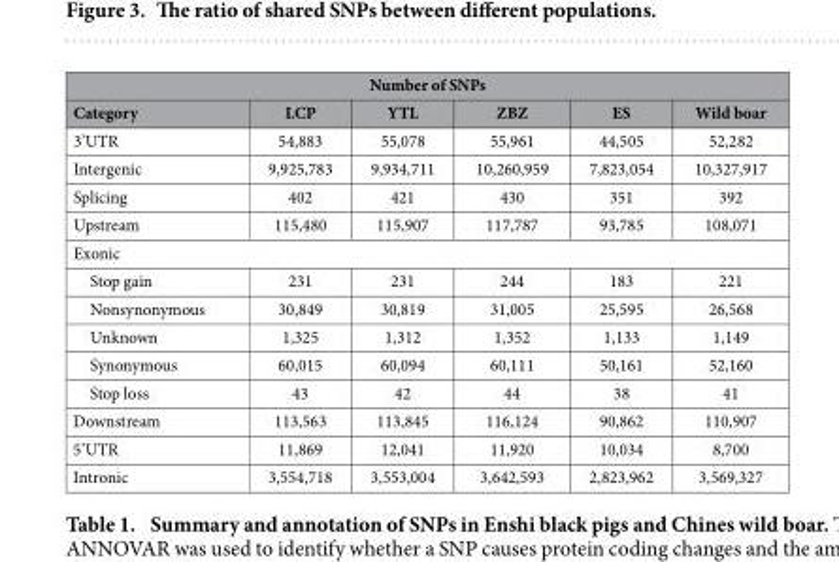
<table><thead><tr><td colspan="6">Number of SNPs</td></tr><tr><td>Category</td><td>LCP</td><td>YTL</td><td>ZBZ</td><td>ES</td><td>Wild boar</td></tr></thead><tbody><tr><td>3’UTR</td><td>54,883</td><td>55,078</td><td>55,961</td><td>44,505</td><td>52,282</td></tr><tr><td>Intergenic</td><td>9,925,783</td><td>9,934,711</td><td>10,260,959</td><td>7,823,054</td><td>10,327,917</td></tr><tr><td>Splicing</td><td>402</td><td>421</td><td>430</td><td>351</td><td>392</td></tr><tr><td>Upstream</td><td>115,480</td><td>115,907</td><td>117,787</td><td>93,785</td><td>108,071</td></tr><tr><td colspan="6">Exonic</td></tr><tr><td>Stop gain</td><td>231</td><td>231</td><td>244</td><td>183</td><td>221</td></tr><tr><td>Nonsynonymous</td><td>30,849</td><td>30,819</td><td>31,005</td><td>25,595</td><td>26,568</td></tr><tr><td>Unknown</td><td>1,325</td><td>1,312</td><td>1,352</td><td>1,133</td><td>1,149</td></tr><tr><td>Synonymous</td><td>60,015</td><td>60,094</td><td>60,111</td><td>50,161</td><td>52,160</td></tr><tr><td>Stop loss</td><td>43</td><td>42</td><td>44</td><td>38</td><td>41</td></tr><tr><td>Downstream</td><td>113,563</td><td>113,845</td><td>116,124</td><td>90,862</td><td>110,907</td></tr><tr><td>5’UTR</td><td>11,869</td><td>12,041</td><td>11,920</td><td>10,034</td><td>8,700</td></tr><tr><td>Intronic</td><td>3,554,718</td><td>3,553,004</td><td>3,642,593</td><td>2,823,962</td><td>3,569,327</td></tr></tbody></table>